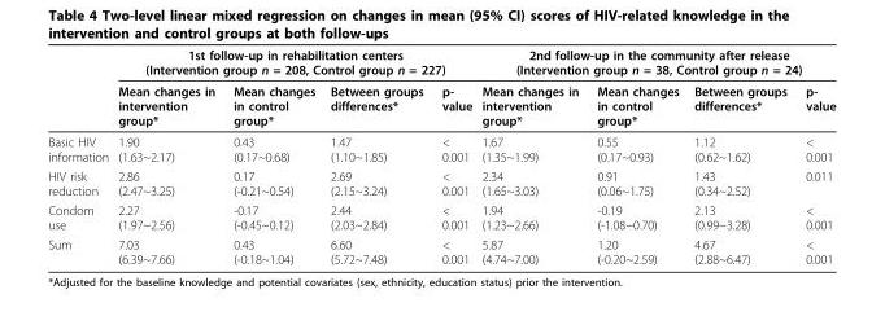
<table><thead><tr><td rowspan="2"></td><td colspan="4">1st follow-up in rehabilitation centers (Intervention group n = 208, Control group n = 227)</td><td colspan="4">2nd follow-up in the community after release (Intervention group n = 38, Control group n = 24)</td></tr><tr><td>Mean changes in intervention group*</td><td>Mean changes in control group*</td><td>Between groups differences*</td><td>p- value</td><td>Mean changes in intervention group*</td><td>Mean changes in control group*</td><td>Between groups differences*</td><td>p- value</td></tr></thead><tbody><tr><td>Basic HIV information</td><td>1.90 (1.63~2.17)</td><td>0.43 (0.17~0.68)</td><td>1.47 (1.10~1.85)</td><td>&lt; 0.001</td><td>1.67 (1.35~1.99)</td><td>0.55 (0.17~0.93)</td><td>1.12 (0.62~1.62)</td><td>&lt; 0.001</td></tr><tr><td>HIV risk reduction</td><td>2.86 (2.47~3.25)</td><td>0.17 (-0.21~0.54)</td><td>2.69 (2.15~3.24)</td><td>&lt; 0.001</td><td>2.34 (1.65~3.03)</td><td>0.91 (0.06~1.75)</td><td>1.43 (0.34~2.52)</td><td>0.011</td></tr><tr><td>Condom use</td><td>2.27 (1.97~2.56)</td><td>-0.17 (-0.45~0.12)</td><td>2.44 (2.03~2.84)</td><td>&lt; 0.001</td><td>1.94 (1.23~2.66)</td><td>-0.19 (-1.08~0.70)</td><td>2.13 (0.99~3.28)</td><td>&lt; 0.001</td></tr><tr><td>Sum</td><td>7.03 (6.39~7.66)</td><td>0.43 (-0.18~1.04)</td><td>6.60 (5.72~7.48)</td><td>&lt; 0.001</td><td>5.87 (4.74~7.00)</td><td>1.20 (-0.20~2.59)</td><td>4.67 (2.88~6.47)</td><td>&lt; 0.001</td></tr></tbody></table>